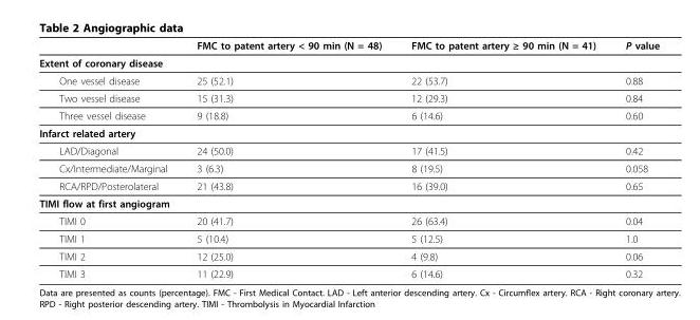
<table><thead><tr><td></td><td>FMC to patent artery &lt; 90 min (N = 48)</td><td>FMC to patent artery ≥ 90 min (N = 41)</td><td>P value</td></tr></thead><tbody><tr><td colspan="4">Extent of coronary disease</td></tr><tr><td>One vessel disease</td><td>25 (52.1)</td><td>22 (53.7)</td><td>0.88</td></tr><tr><td>Two vessel disease</td><td>15 (31.3)</td><td>12 (29.3)</td><td>0.84</td></tr><tr><td>Three vessel disease</td><td>9 (18.8)</td><td>6 (14.6)</td><td>0.60</td></tr><tr><td colspan="4">Infarct related artery</td></tr><tr><td>LAD/Diagonal</td><td>24 (50.0)</td><td>17 (41.5)</td><td>0.42</td></tr><tr><td>Cx/Intermediate/Marginal</td><td>3 (6.3)</td><td>8 (19.5)</td><td>0.058</td></tr><tr><td>RCA/RPD/Posterolateral</td><td>21 (43.8)</td><td>16 (39.0)</td><td>0.65</td></tr><tr><td colspan="4">TIMI flow at first angiogram</td></tr><tr><td>TIMI 0</td><td>20 (41.7)</td><td>26 (63.4)</td><td>0.04</td></tr><tr><td>TIMI 1</td><td>5 (10.4)</td><td>5 (12.5)</td><td>1.0</td></tr><tr><td>TIMI 2</td><td>12 (25.0)</td><td>4 (9.8)</td><td>0.06</td></tr><tr><td>TIMI 3</td><td>11 (22.9)</td><td>6 (14.6)</td><td>0.32</td></tr></tbody></table>